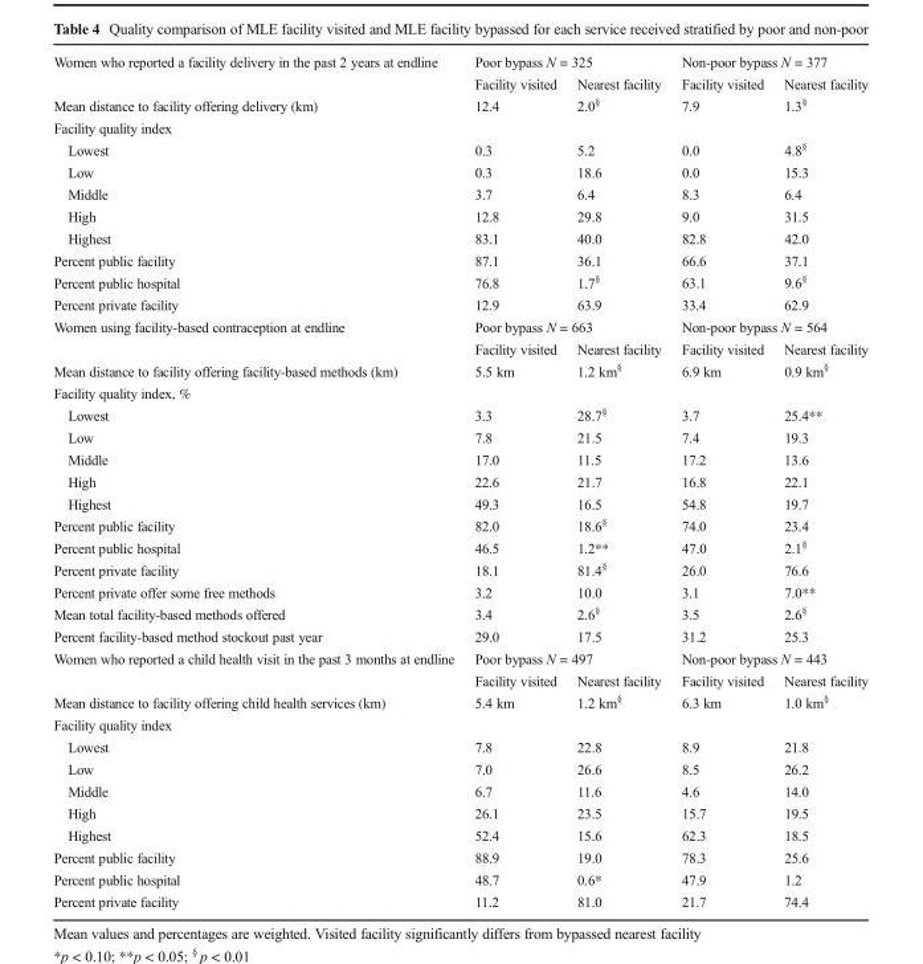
<table><tbody><tr><td rowspan="2">Women who reported a facility delivery in the past 2 years at endline</td><td colspan="2">Poor bypass N = 325</td><td colspan="2">Non-poor bypass N = 377</td></tr><tr><td>Facility visited</td><td>Nearest facility</td><td>Facility visited</td><td>Nearest facility</td></tr><tr><td>Mean distance to facility offering delivery (km)</td><td>12.4</td><td>2.0<sup>§</sup></td><td>7.9</td><td>1.3<sup>§</sup></td></tr><tr><td colspan="5">Facility quality index</td></tr><tr><td>Lowest</td><td>0.3</td><td>5.2</td><td>0.0</td><td>4.8<sup>§</sup></td></tr><tr><td>Low</td><td>0.3</td><td>18.6</td><td>0.0</td><td>15.3</td></tr><tr><td>Middle</td><td>3.7</td><td>6.4</td><td>8.3</td><td>6.4</td></tr><tr><td>High</td><td>12.8</td><td>29.8</td><td>9.0</td><td>31.5</td></tr><tr><td>Highest</td><td>83.1</td><td>40.0</td><td>82.8</td><td>42.0</td></tr><tr><td>Percent public facility</td><td>87.1</td><td>36.1</td><td>66.6</td><td>37.1</td></tr><tr><td>Percent public hospital</td><td>76.8</td><td>1.7<sup>§</sup></td><td>63.1</td><td>9.6<sup>§</sup></td></tr><tr><td>Percent private facility</td><td>12.9</td><td>63.9</td><td>33.4</td><td>62.9</td></tr><tr><td rowspan="2">Women using facility-based contraception at endline</td><td colspan="2">Poor bypass N = 663</td><td colspan="2">Non-poor bypass N = 564</td></tr><tr><td>Facility visited</td><td>Nearest facility</td><td>Facility visited</td><td>Nearest facility</td></tr><tr><td>Mean distance to facility offering facility-based methods (km)</td><td>5.5 km</td><td>1.2 km<sup>§</sup></td><td>6.9 km</td><td>0.9 km<sup>§</sup></td></tr><tr><td colspan="5">Facility quality index, %</td></tr><tr><td>Lowest</td><td>3.3</td><td>28.7<sup>§</sup></td><td>3.7</td><td>25.4**</td></tr><tr><td>Low</td><td>7.8</td><td>21.5</td><td>7.4</td><td>19.3</td></tr><tr><td>Middle</td><td>17.0</td><td>11.5</td><td>17.2</td><td>13.6</td></tr><tr><td>High</td><td>22.6</td><td>21.7</td><td>16.8</td><td>22.1</td></tr><tr><td>Highest</td><td>49.3</td><td>16.5</td><td>54.8</td><td>19.7</td></tr><tr><td>Percent public facility</td><td>82.0</td><td>18.6<sup>§</sup></td><td>74.0</td><td>23.4</td></tr><tr><td>Percent public hospital</td><td>46.5</td><td>1.2**</td><td>47.0</td><td>2.1<sup>§</sup></td></tr><tr><td>Percent private facility</td><td>18.1</td><td>81.4<sup>§</sup></td><td>26.0</td><td>76.6</td></tr><tr><td>Percent private offer some free methods</td><td>3.2</td><td>10.0</td><td>3.1</td><td>7.0**</td></tr><tr><td>Mean total facility-based methods offered</td><td>3.4</td><td>2.6<sup>§</sup></td><td>3.5</td><td>2.6<sup>§</sup></td></tr><tr><td>Percent facility-based method stockout past year</td><td>29.0</td><td>17.5</td><td>31.2</td><td>25.3</td></tr><tr><td rowspan="2">Women who reported a child health visit in the past 3 months at endline</td><td colspan="2">Poor bypass N = 497</td><td colspan="2">Non-poor bypass N = 443</td></tr><tr><td>Facility visited</td><td>Nearest facility</td><td>Facility visited</td><td>Nearest facility</td></tr><tr><td>Mean distance to facility offering child health services (km)</td><td>5.4 km</td><td>1.2 km<sup>§</sup></td><td>6.3 km</td><td>1.0 km<sup>§</sup></td></tr><tr><td colspan="5">Facility quality index</td></tr><tr><td>Lowest</td><td>7.8</td><td>22.8</td><td>8.9</td><td>21.8</td></tr><tr><td>Low</td><td>7.0</td><td>26.6</td><td>8.5</td><td>26.2</td></tr><tr><td>Middle</td><td>6.7</td><td>11.6</td><td>4.6</td><td>14.0</td></tr><tr><td>High</td><td>26.1</td><td>23.5</td><td>15.7</td><td>19.5</td></tr><tr><td>Highest</td><td>52.4</td><td>15.6</td><td>62.3</td><td>18.5</td></tr><tr><td>Percent public facility</td><td>88.9</td><td>19.0</td><td>78.3</td><td>25.6</td></tr><tr><td>Percent public hospital</td><td>48.7</td><td>0.6*</td><td>47.9</td><td>1.2</td></tr><tr><td>Percent private facility</td><td>11.2</td><td>81.0</td><td>21.7</td><td>74.4</td></tr></tbody></table>